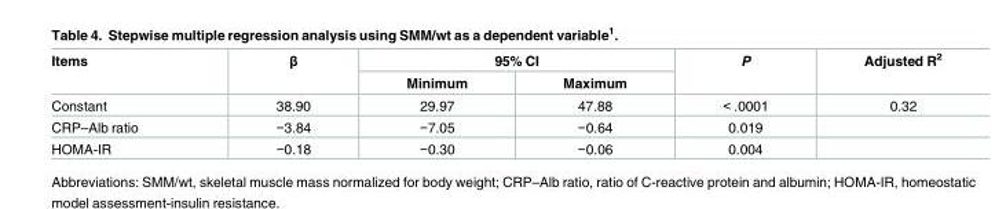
<table><thead><tr><td rowspan="2">Items</td><td rowspan="2">β</td><td colspan="2">95% CI</td><td rowspan="2">P</td><td rowspan="2">Adjusted R<sup>2</sup></td></tr><tr><td>Minimum</td><td>Maximum</td></tr></thead><tbody><tr><td>Constant</td><td>38.90</td><td>29.97</td><td>47.88</td><td>&lt; .0001</td><td>0.32</td></tr><tr><td>CRP–Alb ratio</td><td>−3.84</td><td>−7.05</td><td>−0.64</td><td>0.019</td><td></td></tr><tr><td>HOMA-IR</td><td>−0.18</td><td>−0.30</td><td>−0.06</td><td>0.004</td><td></td></tr></tbody></table>